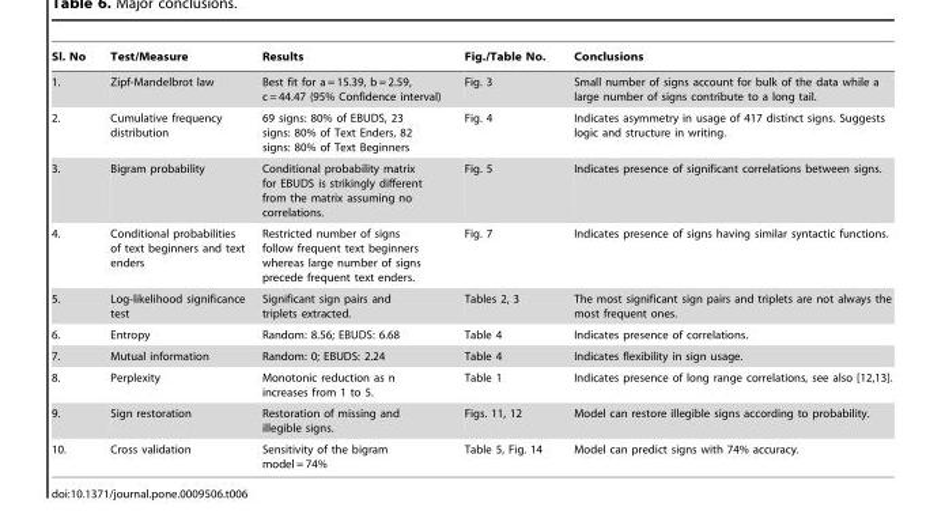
<table><thead><tr><td>Sl. No</td><td>Test/Measure</td><td>Results</td><td>Fig./Table No.</td><td>Conclusions</td></tr></thead><tbody><tr><td>1.</td><td>Zipf-Mandelbrot law</td><td>Best fit for a = 15.39, b = 2.59, c = 44.47 (95% Confidence interval)</td><td>Fig. 3</td><td>Small number of signs account for bulk of the data while a large number of signs contribute to a long tail.</td></tr><tr><td>2.</td><td>Cumulative frequency distribution</td><td>69 signs: 80% of EBUDS, 23 signs: 80% of Text Enders, 82 signs: 80% of Text Beginners</td><td>Fig. 4</td><td>Indicates asymmetry in usage of 417 distinct signs. Suggests logic and structure in writing.</td></tr><tr><td>3.</td><td>Bigram probability</td><td>Conditional probability matrix for EBUDS is strikingly different from the matrix assuming no correlations.</td><td>Fig. 5</td><td>Indicates presence of significant correlations between signs.</td></tr><tr><td>4.</td><td>Conditional probabilities of text beginners and text enders</td><td>Restricted number of signs follow frequent text beginners whereas large number of signs precede frequent text enders.</td><td>Fig. 7</td><td>Indicates presence of signs having similar syntactic functions.</td></tr><tr><td>5.</td><td>Log-likelihood significance test</td><td>Significant sign pairs and triplets extracted.</td><td>Tables 2, 3</td><td>The most significant sign pairs and triplets are not always the most frequent ones.</td></tr><tr><td>6.</td><td>Entropy</td><td>Random: 8.56; EBUDS: 6.68</td><td>Table 4</td><td>Indicates presence of correlations.</td></tr><tr><td>7.</td><td>Mutual information</td><td>Random: 0; EBUDS: 2.24</td><td>Table 4</td><td>Indicates flexibility in sign usage.</td></tr><tr><td>8.</td><td>Perplexity</td><td>Monotonic reduction as n increases from 1 to 5.</td><td>Table 1</td><td>Indicates presence of long range correlations, see also [12,13].</td></tr><tr><td>9.</td><td>Sign restoration</td><td>Restoration of missing and illegible signs.</td><td>Figs. 11, 12</td><td>Model can restore illegible signs according to probability.</td></tr><tr><td>10.</td><td>Cross validation</td><td>Sensitivity of the bigram model = 74%</td><td>Table 5, Fig. 14</td><td>Model can predict signs with 74% accuracy.</td></tr></tbody></table>